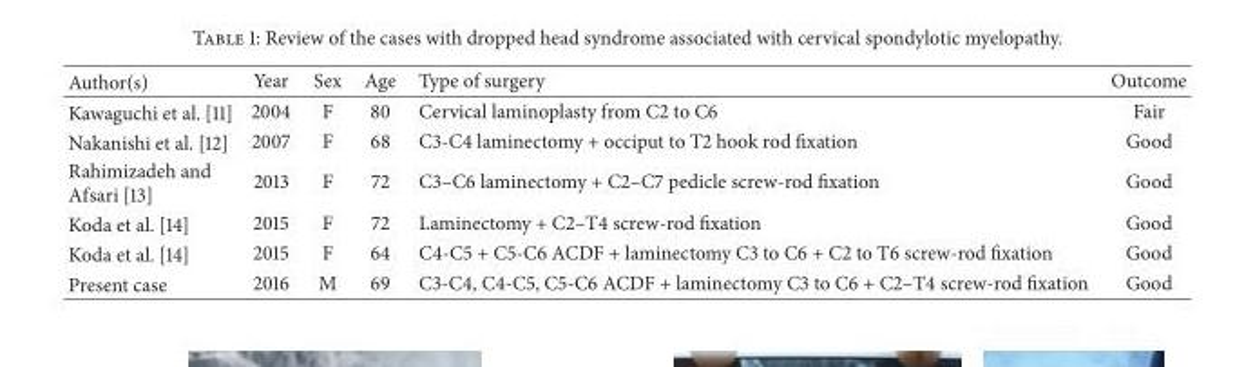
<table><thead><tr><td>Author(s)</td><td>Year</td><td>Sex</td><td>Age</td><td>Type of surgery</td><td>Outcome</td></tr></thead><tbody><tr><td>Kawaguchi et al. [11]</td><td>2004</td><td>F</td><td>80</td><td>Cervical laminoplasty from C2 to C6</td><td>Fair</td></tr><tr><td>Nakanishi et al. [12]</td><td>2007</td><td>F</td><td>68</td><td>C3-C4 laminectomy + occiput to T2 hook rod fixation</td><td>Good</td></tr><tr><td>Rahimizadeh and Afsari [13]</td><td>2013</td><td>F</td><td>72</td><td>C3–C6 laminectomy + C2–C7 pedicle screw-rod fixation</td><td>Good</td></tr><tr><td>Koda et al. [14]</td><td>2015</td><td>F</td><td>72</td><td>Laminectomy + C2–T4 screw-rod fixation</td><td>Good</td></tr><tr><td>Koda et al. [14]</td><td>2015</td><td>F</td><td>64</td><td>C4-C5 + C5-C6 ACDF + laminectomy C3 to C6 + C2 to T6 screw-rod fixation</td><td>Good</td></tr><tr><td>Present case</td><td>2016</td><td>M</td><td>69</td><td>C3-C4, C4-C5, C5-C6 ACDF + laminectomy C3 to C6 + C2–T4 screw-rod fixation</td><td>Good</td></tr></tbody></table>